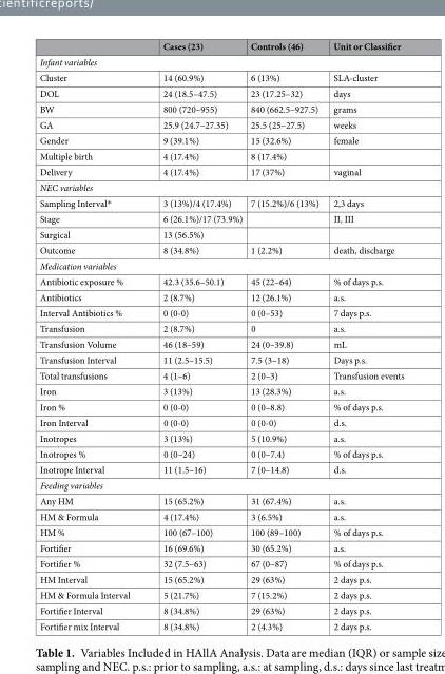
<table><thead><tr><td></td><td>Cases (23)</td><td>Controls (46)</td><td>Unit or Classifier</td></tr></thead><tbody><tr><td colspan="4">Infant variables</td></tr><tr><td>Cluster</td><td>14 (60.9%)</td><td>6 (13%)</td><td>SLA-cluster</td></tr><tr><td>DOL</td><td>24 (18.5–47.5)</td><td>23 (17.25–32)</td><td>days</td></tr><tr><td>BW</td><td>800 (720–955)</td><td>840 (662.5–927.5)</td><td>grams</td></tr><tr><td>GA</td><td>25.9 (24.7–27.35)</td><td>25.5 (25–27.5)</td><td>weeks</td></tr><tr><td>Gender</td><td>9 (39.1%)</td><td>15 (32.6%)</td><td>female</td></tr><tr><td>Multiple birth</td><td>4 (17.4%)</td><td>8 (17.4%)</td><td></td></tr><tr><td>Delivery</td><td>4 (17.4%)</td><td>17 (37%)</td><td>vaginal</td></tr><tr><td colspan="4">NEC variables</td></tr><tr><td>Sampling Interval*</td><td>3 (13%)/4 (17.4%)</td><td>7 (15.2%)/6 (13%)</td><td>2,3 days</td></tr><tr><td>Stage</td><td>6 (26.1%)/17 (73.9%)</td><td></td><td>II, III</td></tr><tr><td>Surgical</td><td>13 (56.5%)</td><td></td><td></td></tr><tr><td>Outcome</td><td>8 (34.8%)</td><td>1 (2.2%)</td><td>death, discharge</td></tr><tr><td colspan="4">Medication variables</td></tr><tr><td>Antibiotic exposure %</td><td>42.3 (35.6–50.1)</td><td>45 (22–64)</td><td>% of days p.s.</td></tr><tr><td>Antibiotics</td><td>2 (8.7%)</td><td>12 (26.1%)</td><td>a.s.</td></tr><tr><td>Interval Antibiotics %</td><td>0 (0-0)</td><td>0 (0–53)</td><td>7 days p.s.</td></tr><tr><td>Transfusion</td><td>2 (8.7%)</td><td>0</td><td>a.s.</td></tr><tr><td>Transfusion Volume</td><td>46 (18–59)</td><td>24 (0–39.8)</td><td>mL</td></tr><tr><td>Transfusion Interval</td><td>11 (2.5–15.5)</td><td>7.5 (3–18)</td><td>Days p.s.</td></tr><tr><td>Total transfusions</td><td>4 (1–6)</td><td>2 (0–3)</td><td>Transfusion events</td></tr><tr><td>Iron</td><td>3 (13%)</td><td>13 (28.3%)</td><td>a.s.</td></tr><tr><td>Iron %</td><td>0 (0-0)</td><td>0 (0–8.8)</td><td>% of days p.s.</td></tr><tr><td>Iron Interval</td><td>0 (0-0)</td><td>0 (0-0)</td><td>d.s.</td></tr><tr><td>Inotropes</td><td>3 (13%)</td><td>5 (10.9%)</td><td>a.s.</td></tr><tr><td>Inotropes %</td><td>0 (0–24)</td><td>0 (0–7.4)</td><td>% of days p.s.</td></tr><tr><td>Inotrope Interval</td><td>11 (1.5–16)</td><td>7 (0–14.8)</td><td>d.s.</td></tr><tr><td colspan="4">Feeding variables</td></tr><tr><td>Any HM</td><td>15 (65.2%)</td><td>31 (67.4%)</td><td>a.s.</td></tr><tr><td>HM &amp; Formula</td><td>4 (17.4%)</td><td>3 (6.5%)</td><td>a.s.</td></tr><tr><td>HM %</td><td>100 (67–100)</td><td>100 (89–100)</td><td>% of days p.s.</td></tr><tr><td>Fortifier</td><td>16 (69.6%)</td><td>30 (65.2%)</td><td>a.s.</td></tr><tr><td>Fortifier %</td><td>32 (7.5–63)</td><td>67 (0–87)</td><td>% of days p.s.</td></tr><tr><td>HM Interval</td><td>15 (65.2%)</td><td>29 (63%)</td><td>2 days p.s.</td></tr><tr><td>HM &amp; Formula Interval</td><td>5 (21.7%)</td><td>7 (15.2%)</td><td>2 days p.s.</td></tr><tr><td>Fortifier Interval</td><td>8 (34.8%)</td><td>29 (63%)</td><td>2 days p.s.</td></tr><tr><td>Fortifier mix Interval</td><td>8 (34.8%)</td><td>2 (4.3%)</td><td>2 days p.s.</td></tr></tbody></table>